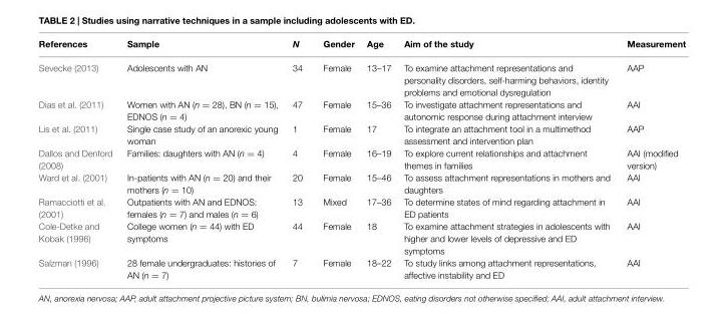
<table><thead><tr><td>References</td><td>Sample</td><td>N</td><td>Gender</td><td>Age</td><td>Aim of the study</td><td>Measurement</td></tr></thead><tbody><tr><td>Sevecke (2013)</td><td>Adolescents with AN</td><td>34</td><td>Female</td><td>13–17</td><td>To examine attachment representations and personality disorders, self-harming behaviors, identity problems and emotional dysregulation</td><td>AAP</td></tr><tr><td>Dias et al. (2011)</td><td>Women with AN (n = 28), BN (n = 15), EDNOS (n = 4)</td><td>47</td><td>Female</td><td>15–36</td><td>To investigate attachment representations and autonomic response during attachment interview</td><td>AAI</td></tr><tr><td>Lis et al. (2011)</td><td>Single case study of an anorexic young woman</td><td>1</td><td>Female</td><td>17</td><td>To integrate an attachment tool in a multimethod assessment and intervention plan</td><td>AAP</td></tr><tr><td>Dallos and Denford (2008)</td><td>Families: daughters with AN (n = 4)</td><td>4</td><td>Female</td><td>16–19</td><td>To explore current relationships and attachment themes in families</td><td>AAI (modified version)</td></tr><tr><td>Ward et al. (2001)</td><td>In-patients with AN (n = 20) and their mothers (n = 10)</td><td>20</td><td>Female</td><td>15–46</td><td>To assess attachment representations in mothers and daughters</td><td>AAI</td></tr><tr><td>Ramacciotti et al. (2001)</td><td>Outpatients with AN and EDNOS: females (n = 7) and males (n = 6)</td><td>13</td><td>Mixed</td><td>17–36</td><td>To determine states of mind regarding attachment in ED patients</td><td>AAI</td></tr><tr><td>Cole-Detke and Kobak (1996)</td><td>College women (n = 44) with ED symptoms</td><td>44</td><td>Female</td><td>18</td><td>To examine attachment strategies in adolescents with higher and lower levels of depressive and ED symptoms</td><td>AAI</td></tr><tr><td>Salzman (1996)</td><td>28 female undergraduates: histories of AN (n = 7)</td><td>7</td><td>Female</td><td>18–22</td><td>To study links among attachment representations, affective instability and ED</td><td>AAI</td></tr></tbody></table>